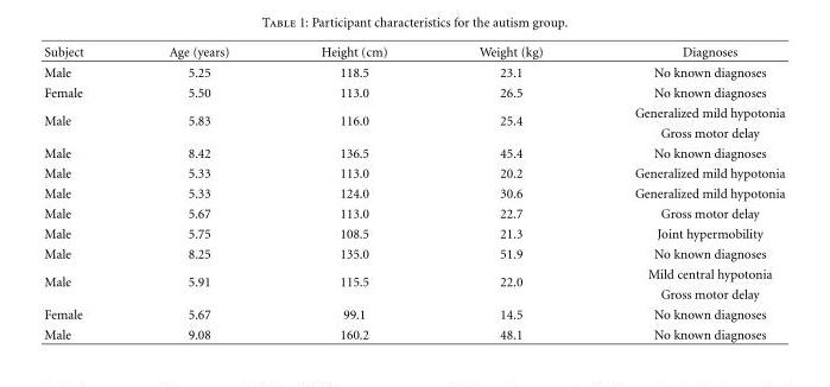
<table><thead><tr><td>Subject</td><td>Age (years)</td><td>Height (cm)</td><td>Weight (kg)</td><td>Diagnoses</td></tr></thead><tbody><tr><td>Male</td><td>5.25</td><td>118.5</td><td>23.1</td><td>No known diagnoses</td></tr><tr><td>Female</td><td>5.50</td><td>113.0</td><td>26.5</td><td>No known diagnoses</td></tr><tr><td rowspan="2">Male</td><td rowspan="2">5.83</td><td rowspan="2">116.0</td><td rowspan="2">25.4</td><td>Generalized mild hypotonia</td></tr><tr><td>Gross motor delay</td></tr><tr><td>Male</td><td>8.42</td><td>136.5</td><td>45.4</td><td>No known diagnoses</td></tr><tr><td>Male</td><td>5.33</td><td>113.0</td><td>20.2</td><td>Generalized mild hypotonia</td></tr><tr><td>Male</td><td>5.33</td><td>124.0</td><td>30.6</td><td>Generalized mild hypotonia</td></tr><tr><td>Male</td><td>5.67</td><td>113.0</td><td>22.7</td><td>Gross motor delay</td></tr><tr><td>Male</td><td>5.75</td><td>108.5</td><td>21.3</td><td>Joint hypermobility</td></tr><tr><td>Male</td><td>8.25</td><td>135.0</td><td>51.9</td><td>No known diagnoses</td></tr><tr><td rowspan="2">Male</td><td rowspan="2">5.91</td><td rowspan="2">115.5</td><td rowspan="2">22.0</td><td>Mild central hypotonia</td></tr><tr><td>Gross motor delay</td></tr><tr><td>Female</td><td>5.67</td><td>99.1</td><td>14.5</td><td>No known diagnoses</td></tr><tr><td>Male</td><td>9.08</td><td>160.2</td><td>48.1</td><td>No known diagnoses</td></tr></tbody></table>